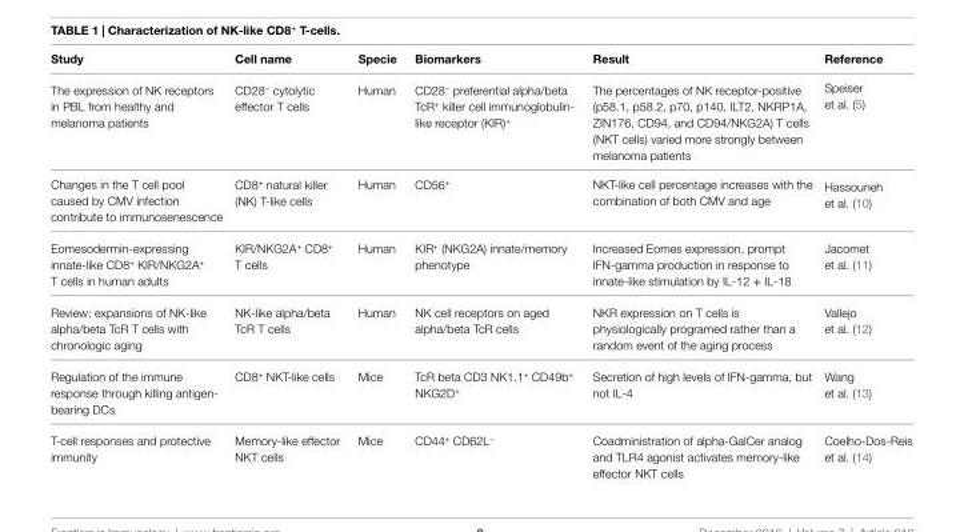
<table><thead><tr><td>Study</td><td>Cell name</td><td>Specie</td><td>Biomarkers</td><td>Result</td><td>Reference</td></tr></thead><tbody><tr><td>The expression of NK receptors in PBL from healthy and melanoma patients</td><td>CD28<sup>−</sup> cytolytic effector T cells</td><td>Human</td><td>CD28<sup>−</sup> preferential alpha/beta TcR<sup>+</sup> killer cell immunoglobulin- like receptor (KIR)<sup>+</sup></td><td>The percentages of NK receptor-positive (p58.1, p58.2, p70, p140, ILT2, NKRP1A, ZIN176, CD94, and CD94/NKG2A) T cells (NKT cells) varied more strongly between melanoma patients</td><td>Speiser et al. (5)</td></tr><tr><td>Changes in the T cell pool caused by CMV infection contribute to immunosenescence</td><td>CD8<sup>+</sup> natural killer (NK) T-like cells</td><td>Human</td><td>CD56<sup>+</sup></td><td>NKT-like cell percentage increases with the combination of both CMV and age</td><td>Hassouneh et al. (10)</td></tr><tr><td>Eomesodermin-expressing innate-like CD8<sup>+</sup> KIR/NKG2A<sup>+</sup> T cells in human adults</td><td>KIR/NKG2A<sup>+</sup> CD8<sup>+</sup> T cells</td><td>Human</td><td>KIR<sup>+</sup> (NKG2A) innate/memory phenotype</td><td>Increased Eomes expression, prompt IFN-gamma production in response to innate-like stimulation by IL-12 + IL-18</td><td>Jacomet et al. (11)</td></tr><tr><td>Review: expansions of NK-like alpha/beta TcR T cells with chronologic aging</td><td>NK-like alpha/beta TcR T cells</td><td>Human</td><td>NK cell receptors on aged alpha/beta TcR cells</td><td>NKR expression on T cells is physiologically programed rather than a random event of the aging process</td><td>Vallejo et al. (12)</td></tr><tr><td>Regulation of the immune response through killing antigen- bearing DCs</td><td>CD8<sup>+</sup> NKT-like cells</td><td>Mice</td><td>TcR beta CD3 NK1.1<sup>+</sup> CD49b<sup>+</sup> NKG2D<sup>+</sup></td><td>Secretion of high levels of IFN-gamma, but not IL-4</td><td>Wang et al. (13)</td></tr><tr><td>T-cell responses and protective immunity</td><td>Memory-like effector NKT cells</td><td>Mice</td><td>CD44<sup>+</sup> CD62L<sup>−</sup></td><td>Coadministration of alpha-GalCer analog and TLR4 agonist activates memory-like effector NKT cells</td><td>Coelho-Dos-Reis et al. (14)</td></tr></tbody></table>